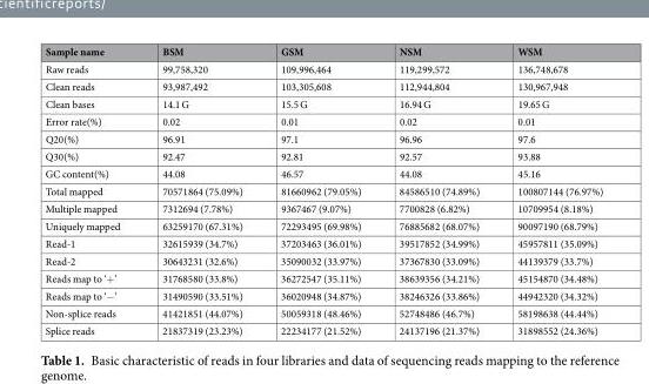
<table><thead><tr><td>Sample name</td><td>BSM</td><td>GSM</td><td>NSM</td><td>WSM</td></tr></thead><tbody><tr><td>Raw reads</td><td>99,758,320</td><td>109,996,464</td><td>119,299,572</td><td>136,748,678</td></tr><tr><td>Clean reads</td><td>93,987,492</td><td>103,305,608</td><td>112,944,804</td><td>130,967,948</td></tr><tr><td>Clean bases</td><td>14.1 G</td><td>15.5 G</td><td>16.94 G</td><td>19.65 G</td></tr><tr><td>Error rate(%)</td><td>0.02</td><td>0.01</td><td>0.02</td><td>0.01</td></tr><tr><td>Q20(%)</td><td>96.91</td><td>97.1</td><td>96.96</td><td>97.6</td></tr><tr><td>Q30(%)</td><td>92.47</td><td>92.81</td><td>92.57</td><td>93.88</td></tr><tr><td>GC content(%)</td><td>44.08</td><td>46.57</td><td>44.08</td><td>45.16</td></tr><tr><td>Total mapped</td><td>70571864 (75.09%)</td><td>81660962 (79.05%)</td><td>84586510 (74.89%)</td><td>100807144 (76.97%)</td></tr><tr><td>Multiple mapped</td><td>7312694 (7.78%)</td><td>9367467 (9.07%)</td><td>7700828 (6.82%)</td><td>10709954 (8.18%)</td></tr><tr><td>Uniquely mapped</td><td>63259170 (67.31%)</td><td>72293495 (69.98%)</td><td>76885682 (68.07%)</td><td>90097190 (68.79%)</td></tr><tr><td>Read-1</td><td>32615939 (34.7%)</td><td>37203463 (36.01%)</td><td>39517852 (34.99%)</td><td>45957811 (35.09%)</td></tr><tr><td>Read-2</td><td>30643231 (32.6%)</td><td>35090032 (33.97%)</td><td>37367830 (33.09%)</td><td>44139379 (33.7%)</td></tr><tr><td>Reads map to ‘+’</td><td>31768580 (33.8%)</td><td>36272547 (35.11%)</td><td>38639356 (34.21%)</td><td>45154870 (34.48%)</td></tr><tr><td>Reads map to ‘−’</td><td>31490590 (33.51%)</td><td>36020948 (34.87%)</td><td>38246326 (33.86%)</td><td>44942320 (34.32%)</td></tr><tr><td>Non-splice reads</td><td>41421851 (44.07%)</td><td>50059318 (48.46%)</td><td>52748486 (46.7%)</td><td>58198638 (44.44%)</td></tr><tr><td>Splice reads</td><td>21837319 (23.23%)</td><td>22234177 (21.52%)</td><td>24137196 (21.37%)</td><td>31898552 (24.36%)</td></tr></tbody></table>